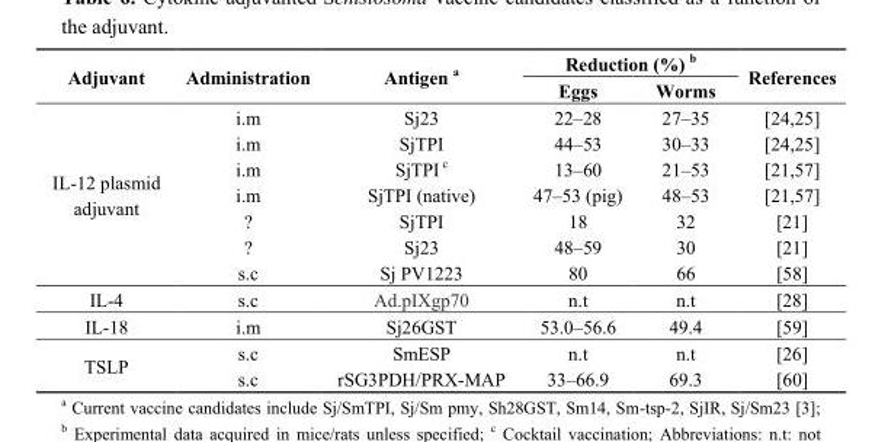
<table><thead><tr><td rowspan="2">Adjuvant</td><td rowspan="2">Administration</td><td rowspan="2">Antigen <sup>a</sup></td><td colspan="2">Reduction (%) <sup>b</sup></td><td rowspan="2">References</td></tr><tr><td>Eggs</td><td>Worms</td></tr></thead><tbody><tr><td rowspan="7">IL-12 plasmid adjuvant</td><td>i.m</td><td>Sj23</td><td>22–28</td><td>27–35</td><td>[24,25]</td></tr><tr><td>i.m</td><td>SjTPI</td><td>44–53</td><td>30–33</td><td>[24,25]</td></tr><tr><td>i.m</td><td>SjTPI <sup>c</sup></td><td>13–60</td><td>21–53</td><td>[21,57]</td></tr><tr><td>i.m</td><td>SjTPI (native)</td><td>47–53 (pig)</td><td>48–53</td><td>[21,57]</td></tr><tr><td>?</td><td>SjTPI</td><td>18</td><td>32</td><td>[21]</td></tr><tr><td>?</td><td>Sj23</td><td>48–59</td><td>30</td><td>[21]</td></tr><tr><td>s.c</td><td>Sj PV1223</td><td>80</td><td>66</td><td>[58]</td></tr><tr><td>IL-4</td><td>s.c</td><td>Ad.pIXgp70</td><td>n.t</td><td>n.t</td><td>[28]</td></tr><tr><td>IL-18</td><td>i.m</td><td>Sj26GST</td><td>53.0–56.6</td><td>49.4</td><td>[59]</td></tr><tr><td rowspan="2">TSLP</td><td>s.c</td><td>SmESP</td><td>n.t</td><td>n.t</td><td>[26]</td></tr><tr><td>s.c</td><td>rSG3PDH/PRX-MAP</td><td>33–66.9</td><td>69.3</td><td>[60]</td></tr></tbody></table>